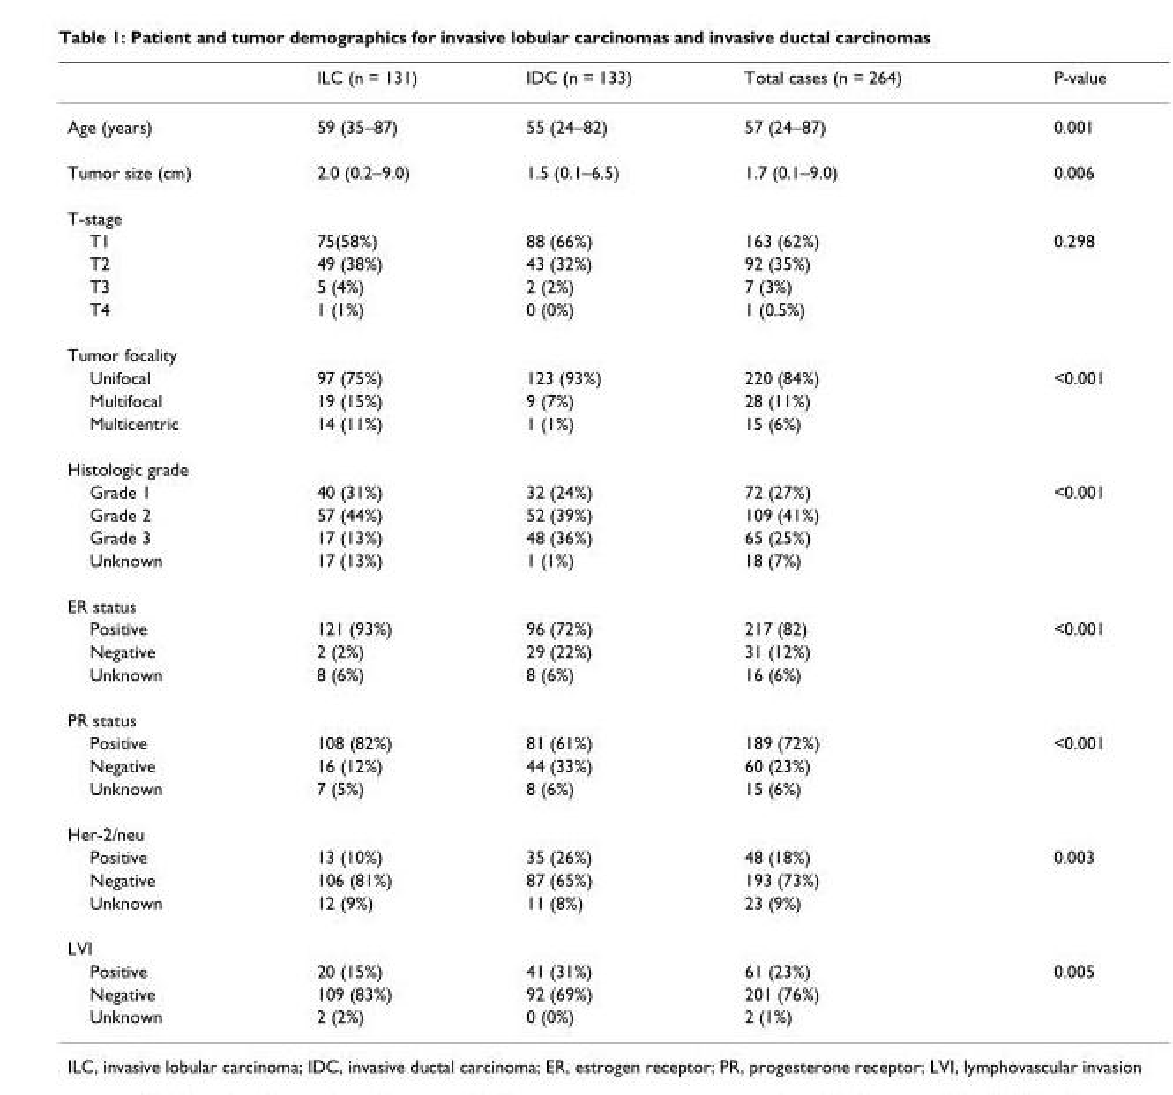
<table><thead><tr><td></td><td>ILC (n = 131)</td><td>IDC (n = 133)</td><td>Total cases (n = 264)</td><td>P-value</td></tr></thead><tbody><tr><td>Age (years)</td><td>59 (35–87)</td><td>55 (24–82)</td><td>57 (24–87)</td><td>0.001</td></tr><tr><td>Tumor size (cm)</td><td>2.0 (0.2–9.0)</td><td>1.5 (0.1–6.5)</td><td>1.7 (0.1–9.0)</td><td>0.006</td></tr><tr><td colspan="5">T-stage</td></tr><tr><td>T1</td><td>75(58%)</td><td>88 (66%)</td><td>163 (62%)</td><td>0.298</td></tr><tr><td>T2</td><td>49 (38%)</td><td>43 (32%)</td><td>92 (35%)</td><td></td></tr><tr><td>T3</td><td>5 (4%)</td><td>2 (2%)</td><td>7 (3%)</td><td></td></tr><tr><td>T4</td><td>1 (1%)</td><td>0 (0%)</td><td>1 (0.5%)</td><td></td></tr><tr><td colspan="5">Tumor focality</td></tr><tr><td>Unifocal</td><td>97 (75%)</td><td>123 (93%)</td><td>220 (84%)</td><td>&lt;0.001</td></tr><tr><td>Multifocal</td><td>19 (15%)</td><td>9 (7%)</td><td>28 (11%)</td><td></td></tr><tr><td>Multicentric</td><td>14 (11%)</td><td>1 (1%)</td><td>15 (6%)</td><td></td></tr><tr><td colspan="5">Histologic grade</td></tr><tr><td>Grade 1</td><td>40 (31%)</td><td>32 (24%)</td><td>72 (27%)</td><td>&lt;0.001</td></tr><tr><td>Grade 2</td><td>57 (44%)</td><td>52 (39%)</td><td>109 (41%)</td><td></td></tr><tr><td>Grade 3</td><td>17 (13%)</td><td>48 (36%)</td><td>65 (25%)</td><td></td></tr><tr><td>Unknown</td><td>17 (13%)</td><td>1 (1%)</td><td>18 (7%)</td><td></td></tr><tr><td colspan="5">ER status</td></tr><tr><td>Positive</td><td>121 (93%)</td><td>96 (72%)</td><td>217 (82)</td><td>&lt;0.001</td></tr><tr><td>Negative</td><td>2 (2%)</td><td>29 (22%)</td><td>31 (12%)</td><td></td></tr><tr><td>Unknown</td><td>8 (6%)</td><td>8 (6%)</td><td>16 (6%)</td><td></td></tr><tr><td colspan="5">PR status</td></tr><tr><td>Positive</td><td>108 (82%)</td><td>81 (61%)</td><td>189 (72%)</td><td>&lt;0.001</td></tr><tr><td>Negative</td><td>16 (12%)</td><td>44 (33%)</td><td>60 (23%)</td><td></td></tr><tr><td>Unknown</td><td>7 (5%)</td><td>8 (6%)</td><td>15 (6%)</td><td></td></tr><tr><td colspan="5">Her-2/neu</td></tr><tr><td>Positive</td><td>13 (10%)</td><td>35 (26%)</td><td>48 (18%)</td><td>0.003</td></tr><tr><td>Negative</td><td>106 (81%)</td><td>87 (65%)</td><td>193 (73%)</td><td></td></tr><tr><td>Unknown</td><td>12 (9%)</td><td>11 (8%)</td><td>23 (9%)</td><td></td></tr><tr><td colspan="5">LVI</td></tr><tr><td>Positive</td><td>20 (15%)</td><td>41 (31%)</td><td>61 (23%)</td><td>0.005</td></tr><tr><td>Negative</td><td>109 (83%)</td><td>92 (69%)</td><td>201 (76%)</td><td></td></tr><tr><td>Unknown</td><td>2 (2%)</td><td>0 (0%)</td><td>2 (1%)</td><td></td></tr></tbody></table>